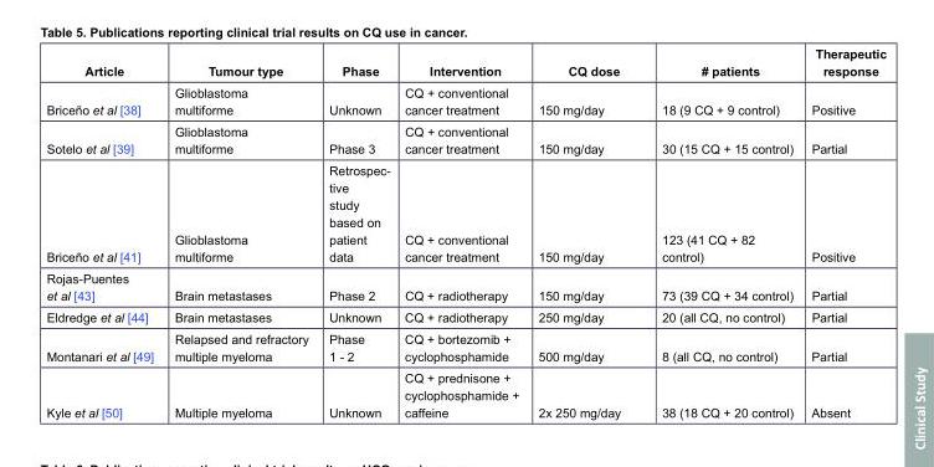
<table><thead><tr><td>Article</td><td>Tumour type</td><td>Phase</td><td>Intervention</td><td>CQ dose</td><td># patients</td><td>Therapeutic response</td></tr></thead><tbody><tr><td>Briceño et al [38]</td><td>Glioblastoma multiforme</td><td>Unknown</td><td>CQ + conventional cancer treatment</td><td>150 mg/day</td><td>18 (9 CQ + 9 control)</td><td>Positive</td></tr><tr><td>Sotelo et al [39]</td><td>Glioblastoma multiforme</td><td>Phase 3</td><td>CQ + conventional cancer treatment</td><td>150 mg/day</td><td>30 (15 CQ + 15 control)</td><td>Partial</td></tr><tr><td>Briceño et al [41]</td><td>Glioblastoma multiforme</td><td>Retrospec- tive study based on patient data</td><td>CQ + conventional cancer treatment</td><td>150 mg/day</td><td>123 (41 CQ + 82 control)</td><td>Positive</td></tr><tr><td>Rojas-Puentes et al [43]</td><td>Brain metastases</td><td>Phase 2</td><td>CQ + radiotherapy</td><td>150 mg/day</td><td>73 (39 CQ + 34 control)</td><td>Partial</td></tr><tr><td>Eldredge et al [44]</td><td>Brain metastases</td><td>Unknown</td><td>CQ + radiotherapy</td><td>250 mg/day</td><td>20 (all CQ, no control)</td><td>Partial</td></tr><tr><td>Montanari et al [49]</td><td>Relapsed and refractory multiple myeloma</td><td>Phase 1 - 2</td><td>CQ + bortezomib + cyclophosphamide</td><td>500 mg/day</td><td>8 (all CQ, no control)</td><td>Partial</td></tr><tr><td>Kyle et al [50]</td><td>Multiple myeloma</td><td>Unknown</td><td>CQ + prednisone + cyclophosphamide + caffeine</td><td>2x 250 mg/day</td><td>38 (18 CQ + 20 control)</td><td>Absent</td></tr></tbody></table>